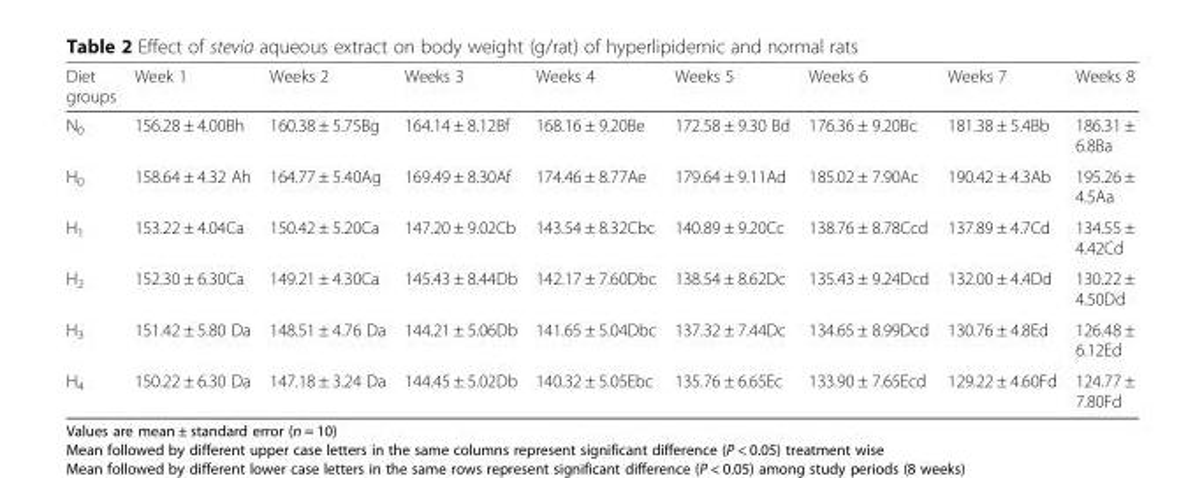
<table><thead><tr><td>Diet groups</td><td>Week 1</td><td>Weeks 2</td><td>Weeks 3</td><td>Weeks 4</td><td>Weeks 5</td><td>Weeks 6</td><td>Weeks 7</td><td>Weeks 8</td></tr></thead><tbody><tr><td>N<sub>0</sub></td><td>156.28 ± 4.00Bh</td><td>160.38 ± 5.75Bg</td><td>164.14 ± 8.12Bf</td><td>168.16 ± 9.20Be</td><td>172.58 ± 9.30 Bd</td><td>176.36 ± 9.20Bc</td><td>181.38 ± 5.4Bb</td><td>186.31 ± 6.8Ba</td></tr><tr><td>H<sub>0</sub></td><td>158.64 ± 4.32 Ah</td><td>164.77 ± 5.40Ag</td><td>169.49 ± 8.30Af</td><td>174.46 ± 8.77Ae</td><td>179.64 ± 9.11Ad</td><td>185.02 ± 7.90Ac</td><td>190.42 ± 4.3Ab</td><td>195.26 ± 4.5Aa</td></tr><tr><td>H<sub>1</sub></td><td>153.22 ± 4.04Ca</td><td>150.42 ± 5.20Ca</td><td>147.20 ± 9.02Cb</td><td>143.54 ± 8.32Cbc</td><td>140.89 ± 9.20Cc</td><td>138.76 ± 8.78Ccd</td><td>137.89 ± 4.7Cd</td><td>134.55 ± 4.42Cd</td></tr><tr><td>H<sub>2</sub></td><td>152.30 ± 6.30Ca</td><td>149.21 ± 4.30Ca</td><td>145.43 ± 8.44Db</td><td>142.17 ± 7.60Dbc</td><td>138.54 ± 8.62Dc</td><td>135.43 ± 9.24Dcd</td><td>132.00 ± 4.4Dd</td><td>130.22 ± 4.50Dd</td></tr><tr><td>H<sub>3</sub></td><td>151.42 ± 5.80 Da</td><td>148.51 ± 4.76 Da</td><td>144.21 ± 5.06Db</td><td>141.65 ± 5.04Dbc</td><td>137.32 ± 7.44Dc</td><td>134.65 ± 8.99Dcd</td><td>130.76 ± 4.8Ed</td><td>126.48 ± 6.12Ed</td></tr><tr><td>H<sub>4</sub></td><td>150.22 ± 6.30 Da</td><td>147.18 ± 3.24 Da</td><td>144.45 ± 5.02Db</td><td>140.32 ± 5.05Ebc</td><td>135.76 ± 6.65Ec</td><td>133.90 ± 7.65Ecd</td><td>129.22 ± 4.60Fd</td><td>124.77 ± 7.80Fd</td></tr></tbody></table>